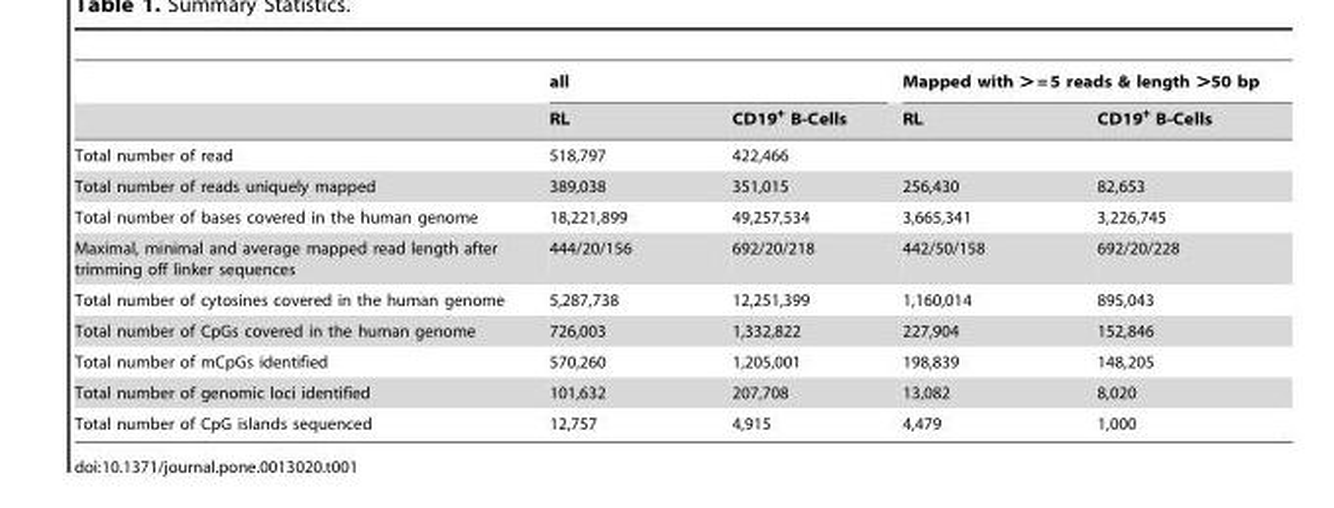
<table><thead><tr><td rowspan="2"></td><td colspan="2">all</td><td colspan="2">Mapped with &gt; = 5 reads &amp; length &gt;50 bp</td></tr><tr><td>RL</td><td>CD19<sup>+</sup> B-Cells</td><td>RL</td><td>CD19<sup>+</sup> B-Cells</td></tr></thead><tbody><tr><td>Total number of read</td><td>518,797</td><td>422,466</td><td></td><td></td></tr><tr><td>Total number of reads uniquely mapped</td><td>389,038</td><td>351,015</td><td>256,430</td><td>82,653</td></tr><tr><td>Total number of bases covered in the human genome</td><td>18,221,899</td><td>49,257,534</td><td>3,665,341</td><td>3,226,745</td></tr><tr><td>Maximal, minimal and average mapped read length after trimming off linker sequences</td><td>444/20/156</td><td>692/20/218</td><td>442/50/158</td><td>692/20/228</td></tr><tr><td>Total number of cytosines covered in the human genome</td><td>5,287,738</td><td>12,251,399</td><td>1,160,014</td><td>895,043</td></tr><tr><td>Total number of CpGs covered in the human genome</td><td>726,003</td><td>1,332,822</td><td>227,904</td><td>152,846</td></tr><tr><td>Total number of mCpGs identified</td><td>570,260</td><td>1,205,001</td><td>198,839</td><td>148,205</td></tr><tr><td>Total number of genomic loci identified</td><td>101,632</td><td>207,708</td><td>13,082</td><td>8,020</td></tr><tr><td>Total number of CpG islands sequenced</td><td>12,757</td><td>4,915</td><td>4,479</td><td>1,000</td></tr></tbody></table>